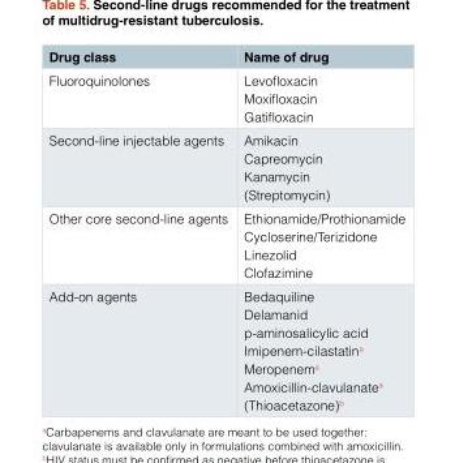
<table><thead><tr><td>Drug class</td><td>Name of drug</td></tr></thead><tbody><tr><td>Fluoroquinolones</td><td>Levofloxacin Moxifloxacin Gatifloxacin</td></tr><tr><td>Second-line injectable agents</td><td>Amikacin Capreomycin Kanamycin (Streptomycin)</td></tr><tr><td>Other core second-line agents</td><td>Ethionamide/Prothionamide Cycloserine/Terizidone Linezolid Clofazimine</td></tr><tr><td>Add-on agents</td><td>Bedaquiline Delamanid p-aminosalicylic acid Imipenem-cilastatin<sup>a</sup> Meropenem<sup>a</sup> Amoxicillin-clavulanate<sup>a</sup> (Thioacetazone)<sup>b</sup></td></tr></tbody></table>